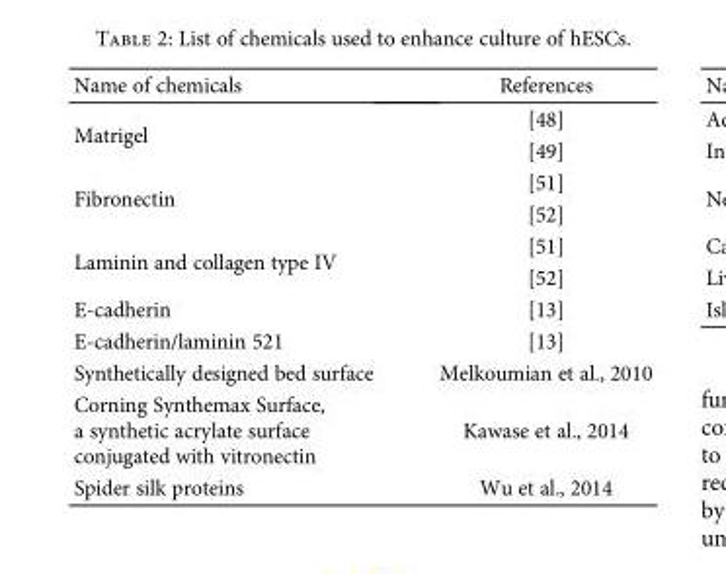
<table><thead><tr><td>Name of chemicals</td><td>References</td></tr></thead><tbody><tr><td rowspan="2">Matrigel</td><td>[48]</td></tr><tr><td>[49]</td></tr><tr><td rowspan="2">Fibronectin</td><td>[51]</td></tr><tr><td>[52]</td></tr><tr><td rowspan="2">Laminin and collagen type IV</td><td>[51]</td></tr><tr><td>[52]</td></tr><tr><td>E-cadherin</td><td>[13]</td></tr><tr><td>E-cadherin/laminin 521</td><td>[13]</td></tr><tr><td>Synthetically designed bed surface</td><td>Melkoumian et al., 2010</td></tr><tr><td>Corning Synthemax Surface, a synthetic acrylate surface conjugated with vitronectin</td><td>Kawase et al., 2014</td></tr><tr><td>Spider silk proteins</td><td>Wu et al., 2014</td></tr></tbody></table>